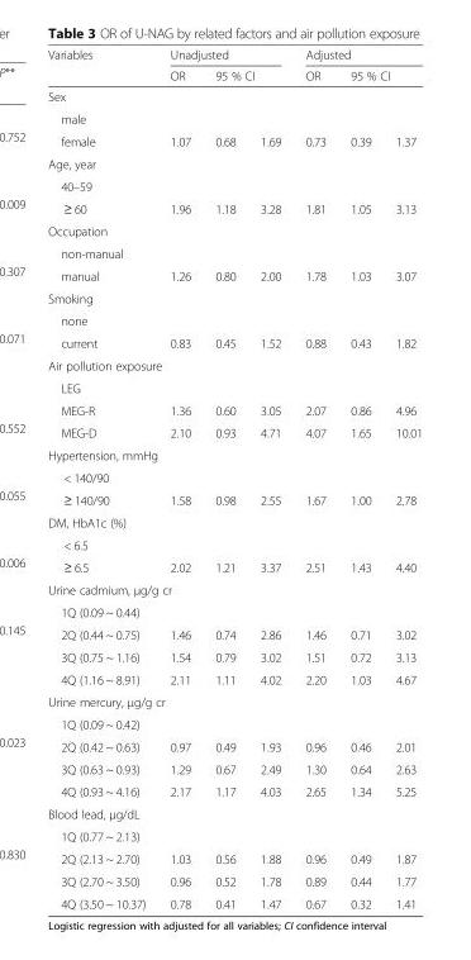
<table><thead><tr><td rowspan="2">Variables</td><td colspan="3">Unadjusted</td><td colspan="3">Adjusted</td></tr><tr><td>OR</td><td colspan="2">95 % CI</td><td>OR</td><td colspan="2">95 % CI</td></tr><tr><td colspan="7">Sex</td></tr><tr><td>male</td><td></td><td></td><td></td><td></td><td></td><td></td></tr></thead><tbody><tr><td>female</td><td>1.07</td><td>0.68</td><td>1.69</td><td>0.73</td><td>0.39</td><td>1.37</td></tr><tr><td colspan="7">Age, year</td></tr><tr><td colspan="7">40–59</td></tr><tr><td>≥ 60</td><td>1.96</td><td>1.18</td><td>3.28</td><td>1.81</td><td>1.05</td><td>3.13</td></tr><tr><td colspan="7">Occupation</td></tr><tr><td colspan="7">non-manual</td></tr><tr><td>manual</td><td>1.26</td><td>0.80</td><td>2.00</td><td>1.78</td><td>1.03</td><td>3.07</td></tr><tr><td colspan="7">Smoking</td></tr><tr><td colspan="7">none</td></tr><tr><td>current</td><td>0.83</td><td>0.45</td><td>1.52</td><td>0.88</td><td>0.43</td><td>1.82</td></tr><tr><td colspan="7">Air pollution exposure</td></tr><tr><td colspan="7">LEG</td></tr><tr><td>MEG-R</td><td>1.36</td><td>0.60</td><td>3.05</td><td>2.07</td><td>0.86</td><td>4.96</td></tr><tr><td>MEG-D</td><td>2.10</td><td>0.93</td><td>4.71</td><td>4.07</td><td>1.65</td><td>10.01</td></tr><tr><td colspan="7">Hypertension, mmHg</td></tr><tr><td colspan="7">&lt; 140/90</td></tr><tr><td>≥ 140/90</td><td>1.58</td><td>0.98</td><td>2.55</td><td>1.67</td><td>1.00</td><td>2.78</td></tr><tr><td colspan="7">DM, HbA1c (%)</td></tr><tr><td colspan="7">&lt; 6.5</td></tr><tr><td>≥ 6.5</td><td>2.02</td><td>1.21</td><td>3.37</td><td>2.51</td><td>1.43</td><td>4.40</td></tr><tr><td colspan="7">Urine cadmium, μg/g cr</td></tr><tr><td colspan="7">1Q (0.09 ~ 0.44)</td></tr><tr><td>2Q (0.44 ~ 0.75)</td><td>1.46</td><td>0.74</td><td>2.86</td><td>1.46</td><td>0.71</td><td>3.02</td></tr><tr><td>3Q (0.75 ~ 1.16)</td><td>1.54</td><td>0.79</td><td>3.02</td><td>1.51</td><td>0.72</td><td>3.13</td></tr><tr><td>4Q (1.16 ~ 8.91)</td><td>2.11</td><td>1.11</td><td>4.02</td><td>2.20</td><td>1.03</td><td>4.67</td></tr><tr><td colspan="7">Urine mercury, μg/g cr</td></tr><tr><td colspan="7">1Q (0.09 ~ 0.42)</td></tr><tr><td>2Q (0.42 ~ 0.63)</td><td>0.97</td><td>0.49</td><td>1.93</td><td>0.96</td><td>0.46</td><td>2.01</td></tr><tr><td>3Q (0.63 ~ 0.93)</td><td>1.29</td><td>0.67</td><td>2.49</td><td>1.30</td><td>0.64</td><td>2.63</td></tr><tr><td>4Q (0.93 ~ 4.16)</td><td>2.17</td><td>1.17</td><td>4.03</td><td>2.65</td><td>1.34</td><td>5.25</td></tr><tr><td colspan="7">Blood lead, μg/dL</td></tr><tr><td colspan="7">1Q (0.77 ~ 2.13)</td></tr><tr><td>2Q (2.13 ~ 2.70)</td><td>1.03</td><td>0.56</td><td>1.88</td><td>0.96</td><td>0.49</td><td>1.87</td></tr><tr><td>3Q (2.70 ~ 3.50)</td><td>0.96</td><td>0.52</td><td>1.78</td><td>0.89</td><td>0.44</td><td>1.77</td></tr><tr><td>4Q (3.50 ~ 10.37)</td><td>0.78</td><td>0.41</td><td>1.47</td><td>0.67</td><td>0.32</td><td>1.41</td></tr></tbody></table>